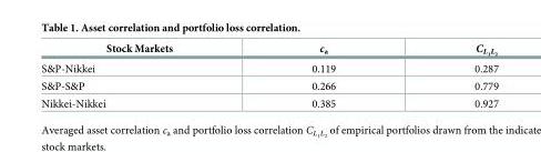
<table><thead><tr><td>Stock Markets</td><td>c<sub>a</sub></td><td>CL1L2</td></tr></thead><tbody><tr><td>S&amp;P-Nikkei</td><td>0.119</td><td>0.287</td></tr><tr><td>S&amp;P-S&amp;P</td><td>0.266</td><td>0.779</td></tr><tr><td>Nikkei-Nikkei</td><td>0.385</td><td>0.927</td></tr></tbody></table>